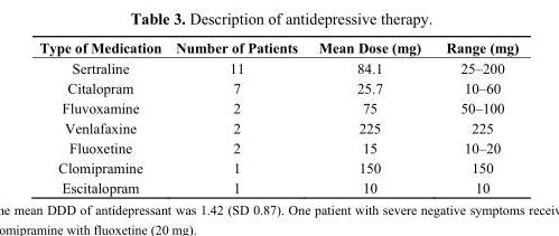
<table><thead><tr><td>Type of Medication</td><td>Number of Patients</td><td>Mean Dose (mg)</td><td>Range (mg)</td></tr></thead><tbody><tr><td>Sertraline</td><td>11</td><td>84.1</td><td>25–200</td></tr><tr><td>Citalopram</td><td>7</td><td>25.7</td><td>10–60</td></tr><tr><td>Fluvoxamine</td><td>2</td><td>75</td><td>50–100</td></tr><tr><td>Venlafaxine</td><td>2</td><td>225</td><td>225</td></tr><tr><td>Fluoxetine</td><td>2</td><td>15</td><td>10–20</td></tr><tr><td>Clomipramine</td><td>1</td><td>150</td><td>150</td></tr><tr><td>Escitalopram</td><td>1</td><td>10</td><td>10</td></tr></tbody></table>